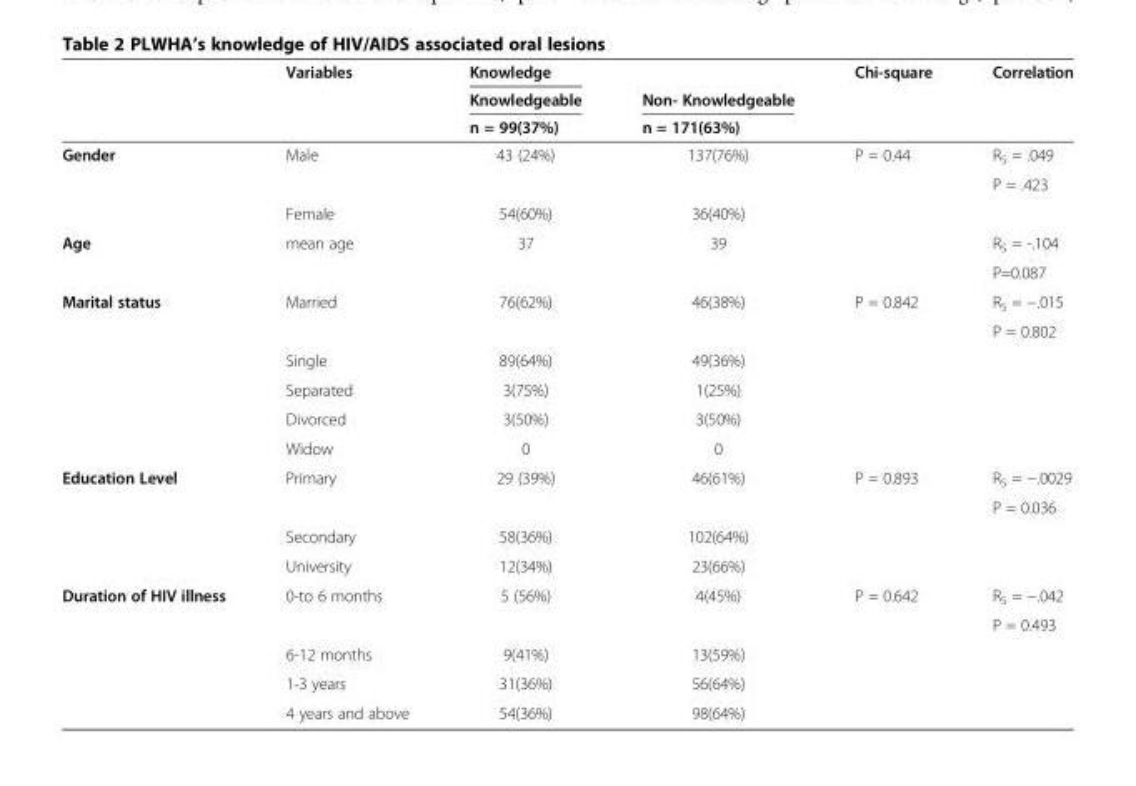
<table><thead><tr><td rowspan="3"></td><td rowspan="3">Variables</td><td rowspan="3">Knowledge Knowledgeable n = 99(37%)</td><td rowspan="3">Non- Knowledgeable n = 171(63%)</td><td rowspan="3">Chi-square</td><td rowspan="3">Correlation</td></tr><tr></tr><tr></tr></thead><tbody><tr><td rowspan="3">Gender</td><td rowspan="2">Male</td><td rowspan="2">43 (24%)</td><td rowspan="2">137(76%)</td><td rowspan="2">P = 0.44</td><td>R<sub>S</sub> = .049</td></tr><tr><td>P = .423</td></tr><tr><td>Female</td><td>54(60%)</td><td>36(40%)</td><td></td><td></td></tr><tr><td rowspan="2">Age</td><td rowspan="2">mean age</td><td rowspan="2">37</td><td rowspan="2">39</td><td rowspan="2"></td><td>R<sub>S</sub> = -.104</td></tr><tr><td>P=0.087</td></tr><tr><td rowspan="6">Marital status</td><td rowspan="2">Married</td><td rowspan="2">76(62%)</td><td rowspan="2">46(38%)</td><td rowspan="2">P = 0.842</td><td>R<sub>S</sub> = −.015</td></tr><tr><td>P = 0.802</td></tr><tr><td>Single</td><td>89(64%)</td><td>49(36%)</td><td></td><td></td></tr><tr><td>Separated</td><td>3(75%)</td><td>1(25%)</td><td></td><td></td></tr><tr><td>Divorced</td><td>3(50%)</td><td>3(50%)</td><td></td><td></td></tr><tr><td>Widow</td><td>0</td><td>0</td><td></td><td></td></tr><tr><td rowspan="4">Education Level</td><td rowspan="2">Primary</td><td rowspan="2">29 (39%)</td><td rowspan="2">46(61%)</td><td rowspan="2">P = 0.893</td><td>R<sub>S</sub> = −.0029</td></tr><tr><td>P = 0.036</td></tr><tr><td>Secondary</td><td>58(36%)</td><td>102(64%)</td><td></td><td></td></tr><tr><td>University</td><td>12(34%)</td><td>23(66%)</td><td></td><td></td></tr><tr><td rowspan="5">Duration of HIV illness</td><td rowspan="2">0-to 6 months</td><td rowspan="2">5 (56%)</td><td rowspan="2">4(45%)</td><td rowspan="2">P = 0.642</td><td>R<sub>S</sub> = −.042</td></tr><tr><td>P = 0.493</td></tr><tr><td>6-12 months</td><td>9(41%)</td><td>13(59%)</td><td></td><td></td></tr><tr><td>1-3 years</td><td>31(36%)</td><td>56(64%)</td><td></td><td></td></tr><tr><td>4 years and above</td><td>54(36%)</td><td>98(64%)</td><td></td><td></td></tr></tbody></table>